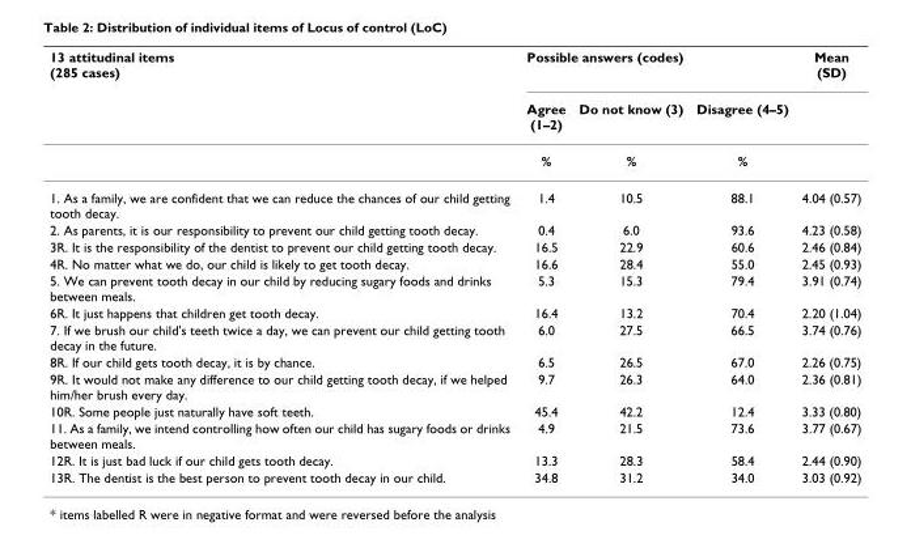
<table><thead><tr><td rowspan="2">13 attitudinal items (285 cases)</td><td colspan="3">Possible answers (codes)</td><td rowspan="2">Mean (SD)</td></tr><tr><td>Agree (1–2)</td><td>Do not know (3)</td><td>Disagree (4–5)</td></tr></thead><tbody><tr><td></td><td>%</td><td>%</td><td>%</td><td></td></tr><tr><td>1. As a family, we are confident that we can reduce the chances of our child getting tooth decay.</td><td>1.4</td><td>10.5</td><td>88.1</td><td>4.04 (0.57)</td></tr><tr><td>2. As parents, it is our responsibility to prevent our child getting tooth decay.</td><td>0.4</td><td>6.0</td><td>93.6</td><td>4.23 (0.58)</td></tr><tr><td>3R. It is the responsibility of the dentist to prevent our child getting tooth decay.</td><td>16.5</td><td>22.9</td><td>60.6</td><td>2.46 (0.84)</td></tr><tr><td>4R. No matter what we do, our child is likely to get tooth decay.</td><td>16.6</td><td>28.4</td><td>55.0</td><td>2.45 (0.93)</td></tr><tr><td>5. We can prevent tooth decay in our child by reducing sugary foods and drinks between meals.</td><td>5.3</td><td>15.3</td><td>79.4</td><td>3.91 (0.74)</td></tr><tr><td>6R. It just happens that children get tooth decay.</td><td>16.4</td><td>13.2</td><td>70.4</td><td>2.20 (1.04)</td></tr><tr><td>7. If we brush our child&#x27;s teeth twice a day, we can prevent our child getting tooth decay in the future.</td><td>6.0</td><td>27.5</td><td>66.5</td><td>3.74 (0.76)</td></tr><tr><td>8R. If our child gets tooth decay, it is by chance.</td><td>6.5</td><td>26.5</td><td>67.0</td><td>2.26 (0.75)</td></tr><tr><td>9R. It would not make any difference to our child getting tooth decay, if we helped him/her brush every day.</td><td>9.7</td><td>26.3</td><td>64.0</td><td>2.36 (0.81)</td></tr><tr><td>10R. Some people just naturally have soft teeth.</td><td>45.4</td><td>42.2</td><td>12.4</td><td>3.33 (0.80)</td></tr><tr><td>11. As a family, we intend controlling how often our child has sugary foods or drinks between meals.</td><td>4.9</td><td>21.5</td><td>73.6</td><td>3.77 (0.67)</td></tr><tr><td>12R. It is just bad luck if our child gets tooth decay.</td><td>13.3</td><td>28.3</td><td>58.4</td><td>2.44 (0.90)</td></tr><tr><td>13R. The dentist is the best person to prevent tooth decay in our child.</td><td>34.8</td><td>31.2</td><td>34.0</td><td>3.03 (0.92)</td></tr></tbody></table>